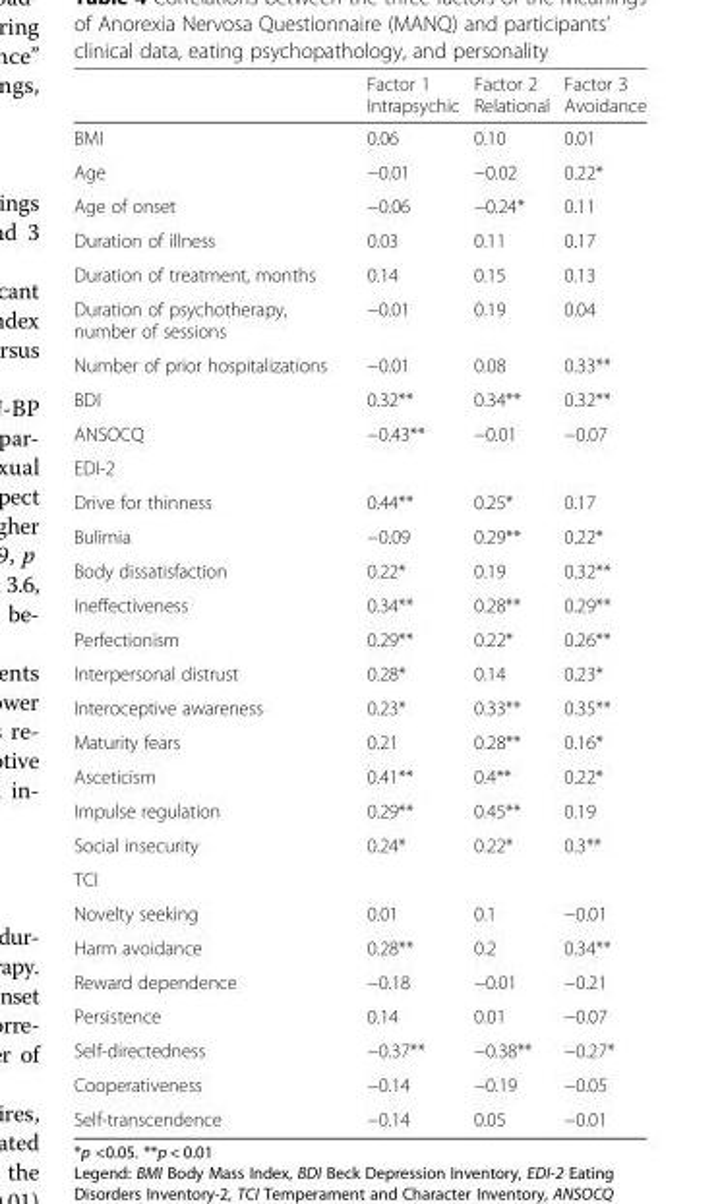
<table><thead><tr><td></td><td>Factor 1 Intrapsychic</td><td>Factor 2 Relational</td><td>Factor 3 Avoidance</td></tr></thead><tbody><tr><td>BMI</td><td>0.06</td><td>0.10</td><td>0.01</td></tr><tr><td>Age</td><td>−0.01</td><td>−0.02</td><td>0.22*</td></tr><tr><td>Age of onset</td><td>−0.06</td><td>−0.24*</td><td>0.11</td></tr><tr><td>Duration of illness</td><td>0.03</td><td>0.11</td><td>0.17</td></tr><tr><td>Duration of treatment, months</td><td>0.14</td><td>0.15</td><td>0.13</td></tr><tr><td>Duration of psychotherapy, number of sessions</td><td>−0.01</td><td>0.19</td><td>0.04</td></tr><tr><td>Number of prior hospitalizations</td><td>−0.01</td><td>0.08</td><td>0.33**</td></tr><tr><td>BDI</td><td>0.32**</td><td>0.34**</td><td>0.32**</td></tr><tr><td>ANSOCQ</td><td>−0.43**</td><td>−0.01</td><td>−0.07</td></tr><tr><td colspan="4">EDI-2</td></tr><tr><td>Drive for thinness</td><td>0.44**</td><td>0.25*</td><td>0.17</td></tr><tr><td>Bulimia</td><td>−0.09</td><td>0.29**</td><td>0.22*</td></tr><tr><td>Body dissatisfaction</td><td>0.22*</td><td>0.19</td><td>0.32**</td></tr><tr><td>Ineffectiveness</td><td>0.34**</td><td>0.28**</td><td>0.29**</td></tr><tr><td>Perfectionism</td><td>0.29**</td><td>0.22*</td><td>0.26**</td></tr><tr><td>Interpersonal distrust</td><td>0.28*</td><td>0.14</td><td>0.23*</td></tr><tr><td>Interoceptive awareness</td><td>0.23*</td><td>0.33**</td><td>0.35**</td></tr><tr><td>Maturity fears</td><td>0.21</td><td>0.28**</td><td>0.16*</td></tr><tr><td>Asceticism</td><td>0.41**</td><td>0.4**</td><td>0.22*</td></tr><tr><td>Impulse regulation</td><td>0.29**</td><td>0.45**</td><td>0.19</td></tr><tr><td>Social insecurity</td><td>0.24*</td><td>0.22*</td><td>0.3**</td></tr><tr><td colspan="4">TCI</td></tr><tr><td>Novelty seeking</td><td>0.01</td><td>0.1</td><td>−0.01</td></tr><tr><td>Harm avoidance</td><td>0.28**</td><td>0.2</td><td>0.34**</td></tr><tr><td>Reward dependence</td><td>−0.18</td><td>−0.01</td><td>−0.21</td></tr><tr><td>Persistence</td><td>0.14</td><td>0.01</td><td>−0.07</td></tr><tr><td>Self-directedness</td><td>−0.37**</td><td>−0.38**</td><td>−0.27*</td></tr><tr><td>Cooperativeness</td><td>−0.14</td><td>−0.19</td><td>−0.05</td></tr><tr><td>Self-transcendence</td><td>−0.14</td><td>0.05</td><td>−0.01</td></tr></tbody></table>